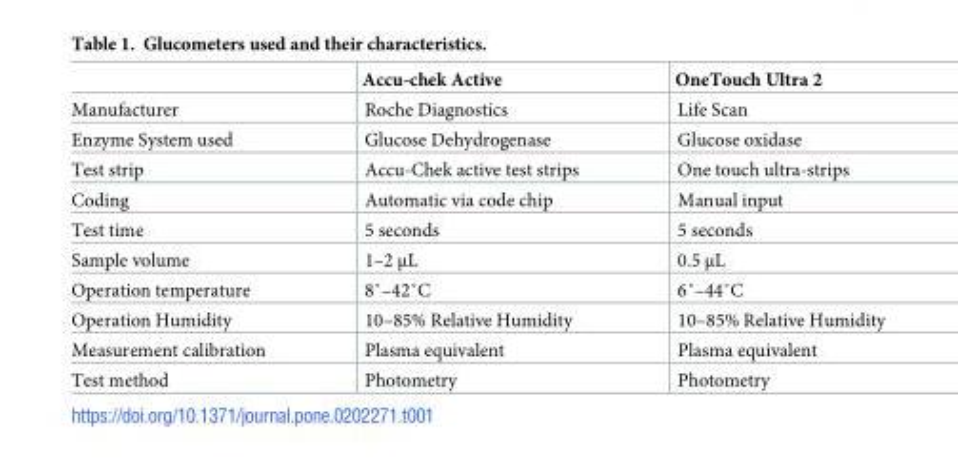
<table><thead><tr><td></td><td>Accu-chek Active</td><td>OneTouch Ultra 2</td></tr></thead><tbody><tr><td>Manufacturer</td><td>Roche Diagnostics</td><td>Life Scan</td></tr><tr><td>Enzyme System used</td><td>Glucose Dehydrogenase</td><td>Glucose oxidase</td></tr><tr><td>Test strip</td><td>Accu-Chek active test strips</td><td>One touch ultra-strips</td></tr><tr><td>Coding</td><td>Automatic via code chip</td><td>Manual input</td></tr><tr><td>Test time</td><td>5 seconds</td><td>5 seconds</td></tr><tr><td>Sample volume</td><td>1–2 μL</td><td>0.5 μL</td></tr><tr><td>Operation temperature</td><td>8˚–42˚C</td><td>6˚–44˚C</td></tr><tr><td>Operation Humidity</td><td>10–85% Relative Humidity</td><td>10–85% Relative Humidity</td></tr><tr><td>Measurement calibration</td><td>Plasma equivalent</td><td>Plasma equivalent</td></tr><tr><td>Test method</td><td>Photometry</td><td>Photometry</td></tr></tbody></table>